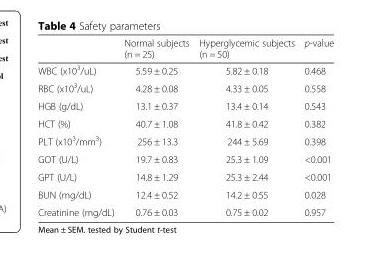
<table><thead><tr><td></td><td>Normal subjects (n = 25)</td><td>Hyperglycemic subjects (n = 50)</td><td>p-value</td></tr></thead><tbody><tr><td>WBC (х10<sup>3</sup>/uL)</td><td>5.59 ± 0.25</td><td>5.82 ± 0.18</td><td>0.468</td></tr><tr><td>RBC (х10<sup>3</sup>/uL)</td><td>4.28 ± 0.08</td><td>4.33 ± 0.05</td><td>0.558</td></tr><tr><td>HGB (g/dL)</td><td>13.1 ± 0.37</td><td>13.4 ± 0.14</td><td>0.543</td></tr><tr><td>HCT (%)</td><td>40.7 ± 1.08</td><td>41.8 ± 0.42</td><td>0.382</td></tr><tr><td>PLT (х10<sup>3</sup>/mm<sup>3</sup>)</td><td>256 ± 13.3</td><td>244 ± 5.69</td><td>0.398</td></tr><tr><td>GOT (U/L)</td><td>19.7 ± 0.83</td><td>25.3 ± 1.09</td><td>&lt;0.001</td></tr><tr><td>GPT (U/L)</td><td>14.8 ± 1.29</td><td>25.3 ± 2.44</td><td>&lt;0.001</td></tr><tr><td>BUN (mg/dL)</td><td>12.4 ± 0.52</td><td>14.2 ± 0.55</td><td>0.028</td></tr><tr><td>Creatinine (mg/dL)</td><td>0.76 ± 0.03</td><td>0.75 ± 0.02</td><td>0.957</td></tr></tbody></table>